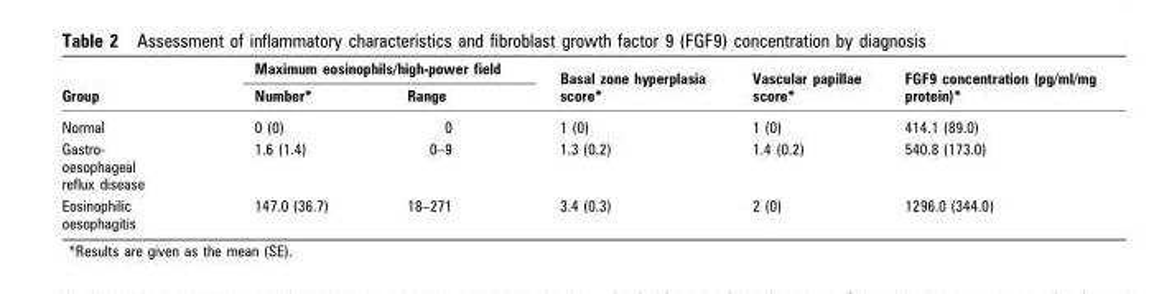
<table><thead><tr><td rowspan="2">Group</td><td colspan="2">Maximum eosinophils/high-power field</td><td rowspan="2">Basal zone hyperplasia score*</td><td rowspan="2">Vascular papillae score*</td><td rowspan="2">FGF9 concentration (pg/ml/mg protein)*</td></tr><tr><td>Number*</td><td>Range</td></tr></thead><tbody><tr><td>Normal</td><td>0 (0)</td><td>0</td><td>1 (0)</td><td>1 (0)</td><td>414.1 (89.0)</td></tr><tr><td>Gastro- oesophageal reflux disease</td><td>1.6 (1.4)</td><td>0–9</td><td>1.3 (0.2)</td><td>1.4 (0.2)</td><td>540.8 (173.0)</td></tr><tr><td>Eosinophilic oesophagitis</td><td>147.0 (36.7)</td><td>18–271</td><td>3.4 (0.3)</td><td>2 (0)</td><td>1296.0 (344.0)</td></tr></tbody></table>